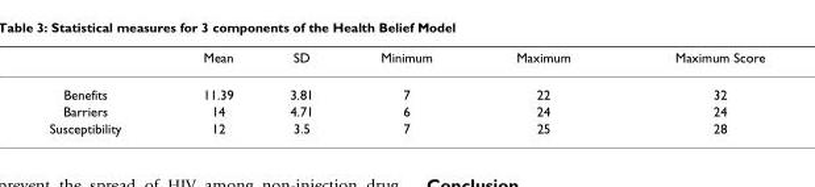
<table><thead><tr><td></td><td>Mean</td><td>SD</td><td>Minimum</td><td>Maximum</td><td>Maximum Score</td></tr></thead><tbody><tr><td>Benefits</td><td>11.39</td><td>3.81</td><td>7</td><td>22</td><td>32</td></tr><tr><td>Barriers</td><td>14</td><td>4.71</td><td>6</td><td>24</td><td>24</td></tr><tr><td>Susceptibility</td><td>12</td><td>3.5</td><td>7</td><td>25</td><td>28</td></tr></tbody></table>